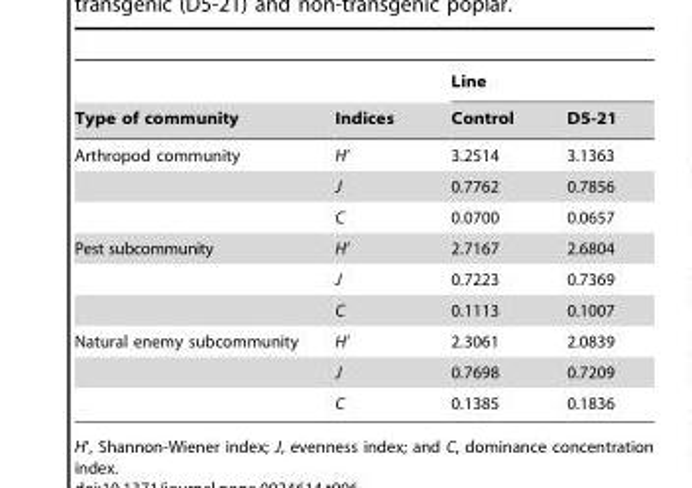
<table><thead><tr><td rowspan="2">Type of community</td><td rowspan="2">Indices</td><td colspan="2">Line</td></tr><tr><td>Control</td><td>D5-21</td></tr></thead><tbody><tr><td rowspan="3">Arthropod community</td><td>H’</td><td>3.2514</td><td>3.1363</td></tr><tr><td>J</td><td>0.7762</td><td>0.7856</td></tr><tr><td>C</td><td>0.0700</td><td>0.0657</td></tr><tr><td rowspan="3">Pest subcommunity</td><td>H’</td><td>2.7167</td><td>2.6804</td></tr><tr><td>J</td><td>0.7223</td><td>0.7369</td></tr><tr><td>C</td><td>0.1113</td><td>0.1007</td></tr><tr><td rowspan="3">Natural enemy subcommunity</td><td>H’</td><td>2.3061</td><td>2.0839</td></tr><tr><td>J</td><td>0.7698</td><td>0.7209</td></tr><tr><td>C</td><td>0.1385</td><td>0.1836</td></tr></tbody></table>